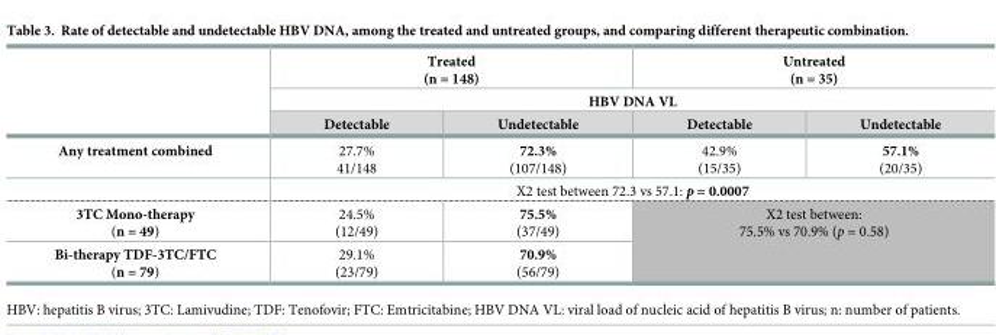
<table><thead><tr><td rowspan="3"></td><td colspan="2">Treated (n = 148)</td><td colspan="2">Untreated (n = 35)</td></tr><tr><td colspan="4">HBV DNA VL</td></tr><tr><td>Detectable</td><td>Undetectable</td><td>Detectable</td><td>Undetectable</td></tr></thead><tbody><tr><td rowspan="2">Any treatment combined</td><td>27.7% 41/148</td><td>72.3% (107/148)</td><td>42.9% (15/35)</td><td>57.1% (20/35)</td></tr><tr><td colspan="4">X2 test between 72.3 vs 57.1: p = 0.0007</td></tr><tr><td>3TC Mono-therapy (n = 49)</td><td>24.5% (12/49)</td><td>75.5% (37/49)</td><td rowspan="2" colspan="2">X2 test between: 75.5% vs 70.9% (p = 0.58)</td></tr><tr><td>Bi-therapy TDF-3TC/FTC (n = 79)</td><td>29.1% (23/79)</td><td>70.9% (56/79)</td></tr></tbody></table>